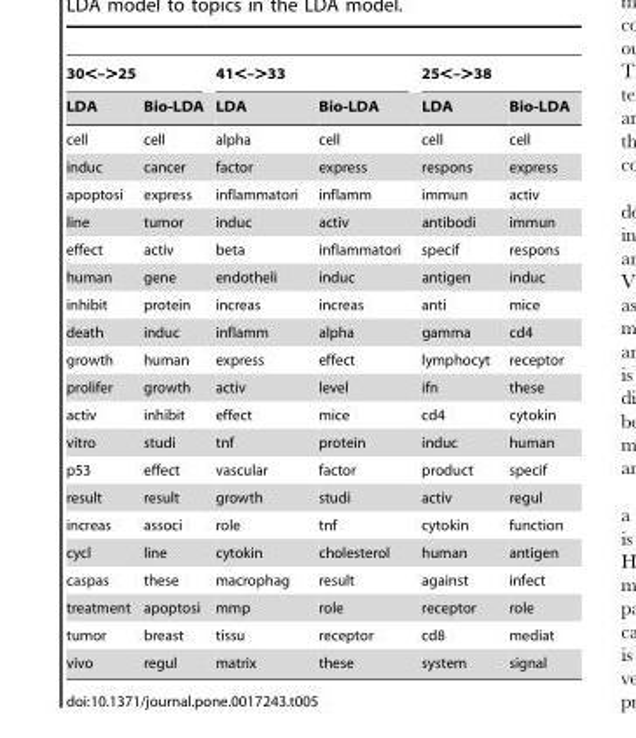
<table><thead><tr><td colspan="2">30&lt;–&gt;25</td><td colspan="2">41&lt;–&gt;33</td><td colspan="2">25&lt;–&gt;38</td></tr><tr><td>LDA</td><td>Bio-LDA</td><td>LDA</td><td>Bio-LDA</td><td>LDA</td><td>Bio-LDA</td></tr></thead><tbody><tr><td>cell</td><td>cell</td><td>alpha</td><td>cell</td><td>cell</td><td>cell</td></tr><tr><td>induc</td><td>cancer</td><td>factor</td><td>express</td><td>respons</td><td>express</td></tr><tr><td>apoptosi</td><td>express</td><td>inflammatori</td><td>inflamm</td><td>immun</td><td>activ</td></tr><tr><td>line</td><td>tumor</td><td>induc</td><td>activ</td><td>antibodi</td><td>immun</td></tr><tr><td>effect</td><td>activ</td><td>beta</td><td>inflammatori</td><td>specif</td><td>respons</td></tr><tr><td>human</td><td>gene</td><td>endotheli</td><td>induc</td><td>antigen</td><td>induc</td></tr><tr><td>inhibit</td><td>protein</td><td>increas</td><td>increas</td><td>anti</td><td>mice</td></tr><tr><td>death</td><td>induc</td><td>inflamm</td><td>alpha</td><td>gamma</td><td>cd4</td></tr><tr><td>growth</td><td>human</td><td>express</td><td>effect</td><td>lymphocyt</td><td>receptor</td></tr><tr><td>prolifer</td><td>growth</td><td>activ</td><td>level</td><td>ifn</td><td>these</td></tr><tr><td>activ</td><td>inhibit</td><td>effect</td><td>mice</td><td>cd4</td><td>cytokin</td></tr><tr><td>vitro</td><td>studi</td><td>tnf</td><td>protein</td><td>induc</td><td>human</td></tr><tr><td>p53</td><td>effect</td><td>vascular</td><td>factor</td><td>product</td><td>specif</td></tr><tr><td>result</td><td>result</td><td>growth</td><td>studi</td><td>activ</td><td>regul</td></tr><tr><td>increas</td><td>associ</td><td>role</td><td>tnf</td><td>cytokin</td><td>function</td></tr><tr><td>cycl</td><td>line</td><td>cytokin</td><td>cholesterol</td><td>human</td><td>antigen</td></tr><tr><td>caspas</td><td>these</td><td>macrophag</td><td>result</td><td>against</td><td>infect</td></tr><tr><td>treatment</td><td>apoptosi</td><td>mmp</td><td>role</td><td>receptor</td><td>role</td></tr><tr><td>tumor</td><td>breast</td><td>tissu</td><td>receptor</td><td>cd8</td><td>mediat</td></tr><tr><td>vivo</td><td>regul</td><td>matrix</td><td>these</td><td>system</td><td>signal</td></tr></tbody></table>